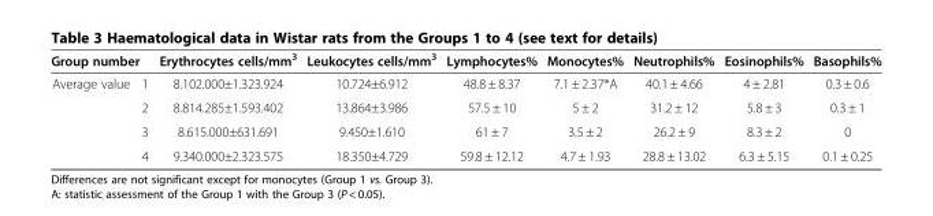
<table><thead><tr><td colspan="2">Group number</td><td rowspan="2">Erythrocytes cells/mm<sup>3</sup> 8.102.000±1.323.924</td><td rowspan="2">Leukocytes cells/mm<sup>3</sup> 10.724±6.912</td><td rowspan="2">Lymphocytes% 48.8 ± 8.37</td><td rowspan="2">Monocytes% 7.1 ± 2.37*A</td><td rowspan="2">Neutrophils% 40.1 ± 4.66</td><td rowspan="2">Eosinophils% 4 ± 2.81</td><td rowspan="2">Basophils% 0.3 ± 0.6</td></tr><tr><td>Average value</td><td>1</td></tr></thead><tbody><tr><td></td><td>2</td><td>8.814.285±1.593.402</td><td>13.864±3.986</td><td>57.5 ± 10</td><td>5 ± 2</td><td>31.2 ± 12</td><td>5.8 ± 3</td><td>0.3 ± 1</td></tr><tr><td></td><td>3</td><td>8.615.000±631.691</td><td>9.450±1.610</td><td>61 ± 7</td><td>3.5 ± 2</td><td>26.2 ± 9</td><td>8.3 ± 2</td><td>0</td></tr><tr><td></td><td>4</td><td>9.340.000±2.323.575</td><td>18.350±4.729</td><td>59.8 ± 12.12</td><td>4.7 ± 1.93</td><td>28.8 ± 13.02</td><td>6.3 ± 5.15</td><td>0.1 ± 0.25</td></tr></tbody></table>